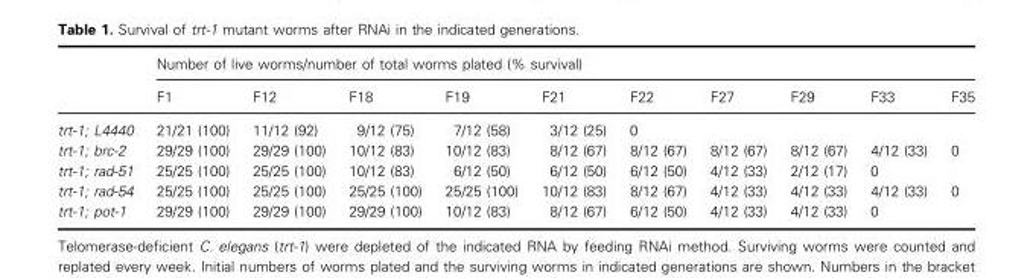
<table><thead><tr><td rowspan="2"></td><td colspan="10">Number of live worms/number of total worms plated (% survival)</td></tr><tr><td>F1</td><td>F12</td><td>F18</td><td>F19</td><td>F21</td><td>F22</td><td>F27</td><td>F29</td><td>F33</td><td>F35</td></tr></thead><tbody><tr><td>trt-1; L4440</td><td>21/21 (100)</td><td>11/12 (92)</td><td>9/12 (75)</td><td>7/12 (58)</td><td>3/12 (25)</td><td>0</td><td></td><td></td><td></td><td></td></tr><tr><td>trt-1; brc-2</td><td>29/29 (100)</td><td>29/29 (100)</td><td>10/12 (83)</td><td>10/12 (83)</td><td>8/12 (67)</td><td>8/12 (67)</td><td>8/12 (67)</td><td>8/12 (67)</td><td>4/12 (33)</td><td>0</td></tr><tr><td>trt-1; rad-51</td><td>25/25 (100)</td><td>25/25 (100)</td><td>10/12 (83)</td><td>6/12 (50)</td><td>6/12 (50)</td><td>6/12 (50)</td><td>4/12 (33)</td><td>2/12 (17)</td><td>0</td><td></td></tr><tr><td>trt-1; rad-54</td><td>25/25 (100)</td><td>25/25 (100)</td><td>25/25 (100)</td><td>25/25 (100)</td><td>10/12 (83)</td><td>8/12 (67)</td><td>4/12 (33)</td><td>4/12 (33)</td><td>4/12 (33)</td><td>0</td></tr><tr><td>trt-1; pot-1</td><td>29/29 (100)</td><td>29/29 (100)</td><td>29/29 (100)</td><td>10/12 (83)</td><td>8/12 (67)</td><td>6/12 (50)</td><td>4/12 (33)</td><td>4/12 (33)</td><td>0</td><td></td></tr></tbody></table>